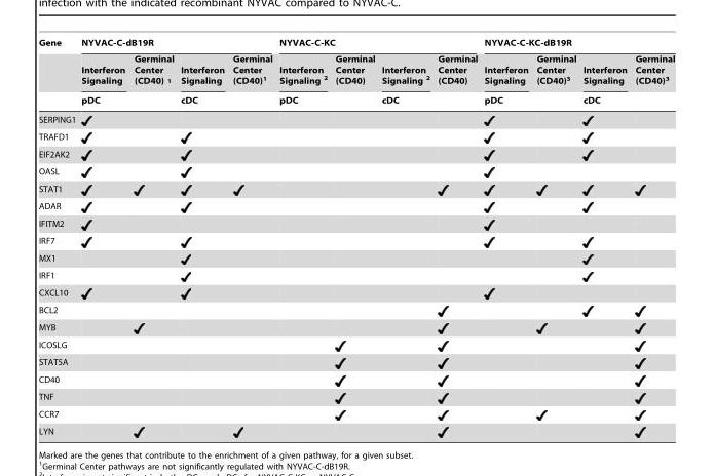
<table><thead><tr><td rowspan="3">Gene</td><td colspan="4">NYVAC-C-dB19R</td><td colspan="4">NYVAC-C-KC</td><td colspan="4">NYVAC-C-KC-dB19R</td></tr><tr><td>Interferon Signaling</td><td>Germinal Center (CD40) 1</td><td>Interferon Signaling</td><td>Germinal Center (CD40)<sup>1</sup></td><td>Interferon Signaling 2</td><td>Germinal Center (CD40)</td><td>Interferon Signaling 2</td><td>Germinal Center (CD40)</td><td>Interferon Signaling</td><td>Germinal Center (CD40)<sup>3</sup></td><td>Interferon Signaling</td><td>Germinal Center (CD40)<sup>3</sup></td></tr><tr><td colspan="2">pDC</td><td colspan="2">cDC</td><td colspan="2">pDC</td><td colspan="2">cDC</td><td colspan="2">pDC</td><td colspan="2">cDC</td></tr></thead><tbody><tr><td colspan="13">SERPING1</td></tr><tr><td colspan="13">TRAFD1</td></tr><tr><td colspan="13">EIF2AK2</td></tr><tr><td colspan="13">OASL</td></tr><tr><td colspan="13">STAT1</td></tr><tr><td colspan="13">ADAR</td></tr><tr><td colspan="13">IFITM2</td></tr><tr><td colspan="13">IRF7</td></tr><tr><td colspan="13">MX1</td></tr><tr><td colspan="13">IRF1</td></tr><tr><td colspan="13">CXCL10</td></tr><tr><td colspan="13">BCL2</td></tr><tr><td colspan="13">MYB</td></tr><tr><td colspan="13">ICOSLG</td></tr><tr><td colspan="13">STAT5A</td></tr><tr><td colspan="13">CD40</td></tr><tr><td colspan="13">TNF</td></tr><tr><td colspan="13">CCR7</td></tr><tr><td>LYN</td><td></td><td></td><td></td><td></td><td></td><td></td><td></td><td></td><td></td><td></td><td></td><td></td></tr></tbody></table>